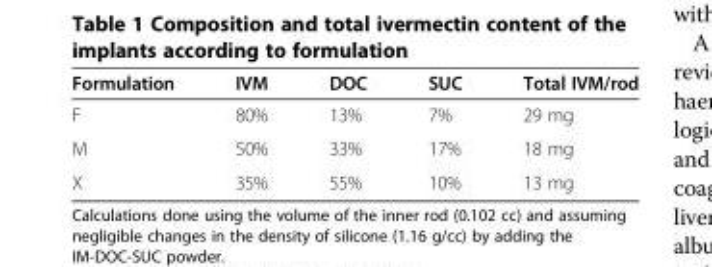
<table><thead><tr><td>Formulation</td><td>IVM</td><td>DOC</td><td>SUC</td><td>Total IVM/rod</td></tr></thead><tbody><tr><td>F</td><td>80%</td><td>13%</td><td>7%</td><td>29 mg</td></tr><tr><td>M</td><td>50%</td><td>33%</td><td>17%</td><td>18 mg</td></tr><tr><td>X</td><td>35%</td><td>55%</td><td>10%</td><td>13 mg</td></tr></tbody></table>